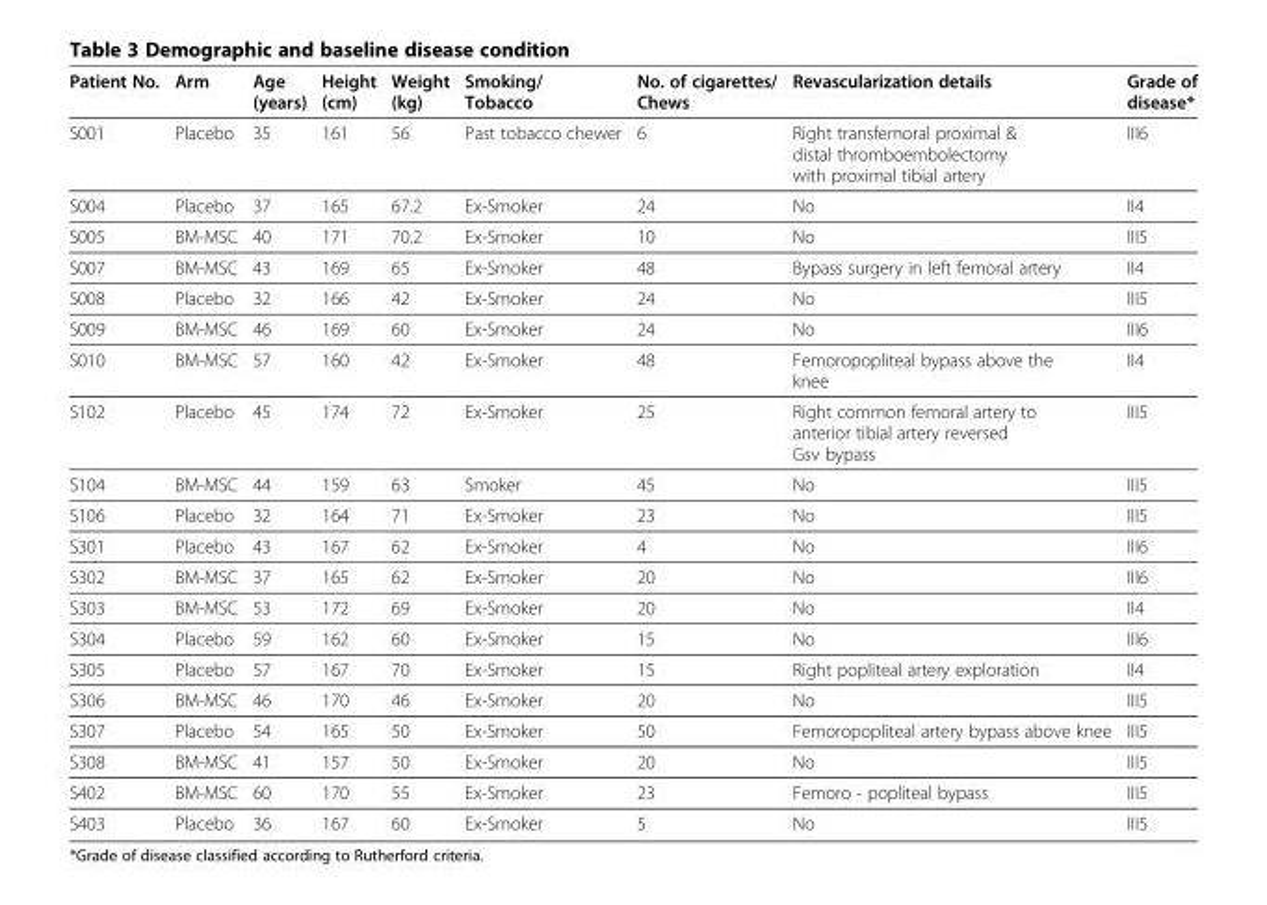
<table><thead><tr><td>Patient No.</td><td>Arm</td><td>Age (years)</td><td>Height (cm)</td><td>Weight (kg)</td><td>Smoking/ Tobacco</td><td>No. of cigarettes/ Chews</td><td>Revascularization details</td><td>Grade of disease*</td></tr></thead><tbody><tr><td>S001</td><td>Placebo</td><td>35</td><td>161</td><td>56</td><td>Past tobacco chewer</td><td>6</td><td>Right transfemoral proximal &amp; distal thromboembolectomy with proximal tibial artery</td><td>III6</td></tr><tr><td>S004</td><td>Placebo</td><td>37</td><td>165</td><td>67.2</td><td>Ex-Smoker</td><td>24</td><td>No</td><td>II4</td></tr><tr><td>S005</td><td>BM-MSC</td><td>40</td><td>171</td><td>70.2</td><td>Ex-Smoker</td><td>10</td><td>No</td><td>III5</td></tr><tr><td>S007</td><td>BM-MSC</td><td>43</td><td>169</td><td>65</td><td>Ex-Smoker</td><td>48</td><td>Bypass surgery in left femoral artery</td><td>II4</td></tr><tr><td>S008</td><td>Placebo</td><td>32</td><td>166</td><td>42</td><td>Ex-Smoker</td><td>24</td><td>No</td><td>III5</td></tr><tr><td>S009</td><td>BM-MSC</td><td>46</td><td>169</td><td>60</td><td>Ex-Smoker</td><td>24</td><td>No</td><td>III6</td></tr><tr><td>S010</td><td>BM-MSC</td><td>57</td><td>160</td><td>42</td><td>Ex-Smoker</td><td>48</td><td>Femoropopliteal bypass above the knee</td><td>II4</td></tr><tr><td>S102</td><td>Placebo</td><td>45</td><td>174</td><td>72</td><td>Ex-Smoker</td><td>25</td><td>Right common femoral artery to anterior tibial artery reversed Gsv bypass</td><td>III5</td></tr><tr><td>S104</td><td>BM-MSC</td><td>44</td><td>159</td><td>63</td><td>Smoker</td><td>45</td><td>No</td><td>III5</td></tr><tr><td>S106</td><td>Placebo</td><td>32</td><td>164</td><td>71</td><td>Ex-Smoker</td><td>23</td><td>No</td><td>III5</td></tr><tr><td>S301</td><td>Placebo</td><td>43</td><td>167</td><td>62</td><td>Ex-Smoker</td><td>4</td><td>No</td><td>III6</td></tr><tr><td>S302</td><td>BM-MSC</td><td>37</td><td>165</td><td>62</td><td>Ex-Smoker</td><td>20</td><td>No</td><td>III6</td></tr><tr><td>S303</td><td>BM-MSC</td><td>53</td><td>172</td><td>69</td><td>Ex-Smoker</td><td>20</td><td>No</td><td>II4</td></tr><tr><td>S304</td><td>Placebo</td><td>59</td><td>162</td><td>60</td><td>Ex-Smoker</td><td>15</td><td>No</td><td>III6</td></tr><tr><td>S305</td><td>Placebo</td><td>57</td><td>167</td><td>70</td><td>Ex-Smoker</td><td>15</td><td>Right popliteal artery exploration</td><td>II4</td></tr><tr><td>S306</td><td>BM-MSC</td><td>46</td><td>170</td><td>46</td><td>Ex-Smoker</td><td>20</td><td>No</td><td>III5</td></tr><tr><td>S307</td><td>Placebo</td><td>54</td><td>165</td><td>50</td><td>Ex-Smoker</td><td>50</td><td>Femoropopliteal artery bypass above knee</td><td>III5</td></tr><tr><td>S308</td><td>BM-MSC</td><td>41</td><td>157</td><td>50</td><td>Ex-Smoker</td><td>20</td><td>No</td><td>III5</td></tr><tr><td>S402</td><td>BM-MSC</td><td>60</td><td>170</td><td>55</td><td>Ex-Smoker</td><td>23</td><td>Femoro - popliteal bypass</td><td>III5</td></tr><tr><td>S403</td><td>Placebo</td><td>36</td><td>167</td><td>60</td><td>Ex-Smoker</td><td>5</td><td>No</td><td>III5</td></tr></tbody></table>